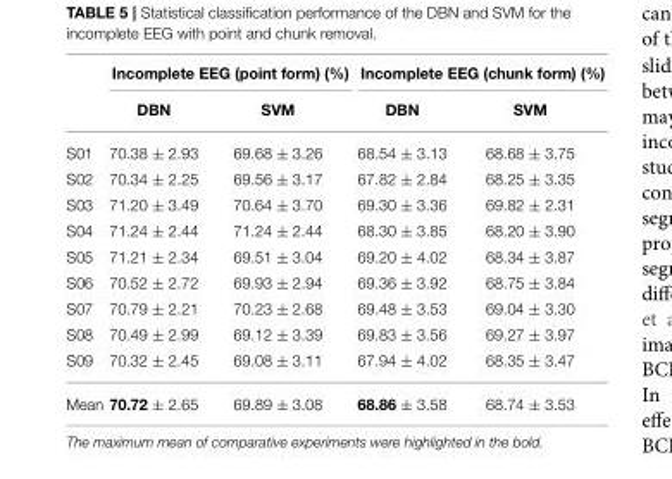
<table><thead><tr><td rowspan="2"></td><td colspan="2">Incomplete EEG (point form) (%)</td><td colspan="2">Incomplete EEG (chunk form) (%)</td></tr><tr><td>DBN</td><td>SVM</td><td>DBN</td><td>SVM</td></tr></thead><tbody><tr><td>S01</td><td>70.38 ± 2.93</td><td>69.68 ± 3.26</td><td>68.54 ± 3.13</td><td>68.68 ± 3.75</td></tr><tr><td>S02</td><td>70.34 ± 2.25</td><td>69.56 ± 3.17</td><td>67.82 ± 2.84</td><td>68.25 ± 3.35</td></tr><tr><td>S03</td><td>71.20 ± 3.49</td><td>70.64 ± 3.70</td><td>69.30 ± 3.36</td><td>69.82 ± 2.31</td></tr><tr><td>S04</td><td>71.24 ± 2.44</td><td>71.24 ± 2.44</td><td>68.30 ± 3.85</td><td>68.20 ± 3.90</td></tr><tr><td>S05</td><td>71.21 ± 2.34</td><td>69.51 ± 3.04</td><td>69.20 ± 4.02</td><td>68.34 ± 3.87</td></tr><tr><td>S06</td><td>70.52 ± 2.72</td><td>69.93 ± 2.94</td><td>69.36 ± 3.92</td><td>68.75 ± 3.84</td></tr><tr><td>S07</td><td>70.79 ± 2.21</td><td>70.23 ± 2.68</td><td>69.48 ± 3.53</td><td>69.04 ± 3.30</td></tr><tr><td>S08</td><td>70.49 ± 2.99</td><td>69.12 ± 3.39</td><td>69.83 ± 3.56</td><td>69.27 ± 3.97</td></tr><tr><td>S09</td><td>70.32 ± 2.45</td><td>69.08 ± 3.11</td><td>67.94 ± 4.02</td><td>68.35 ± 3.47</td></tr><tr><td>Mean</td><td>70.72 ± 2.65</td><td>69.89 ± 3.08</td><td>68.86 ± 3.58</td><td>68.74 ± 3.53</td></tr></tbody></table>